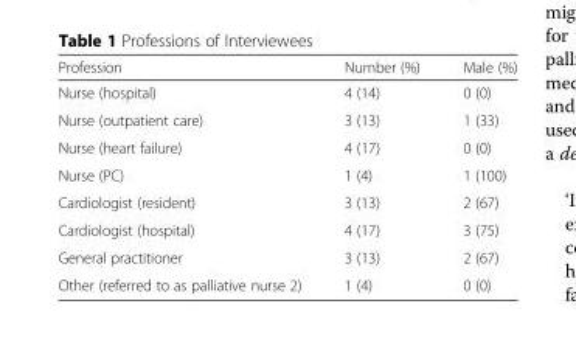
<table><thead><tr><td>Profession</td><td>Number (%)</td><td>Male (%)</td></tr></thead><tbody><tr><td>Nurse (hospital)</td><td>4 (14)</td><td>0 (0)</td></tr><tr><td>Nurse (outpatient care)</td><td>3 (13)</td><td>1 (33)</td></tr><tr><td>Nurse (heart failure)</td><td>4 (17)</td><td>0 (0)</td></tr><tr><td>Nurse (PC)</td><td>1 (4)</td><td>1 (100)</td></tr><tr><td>Cardiologist (resident)</td><td>3 (13)</td><td>2 (67)</td></tr><tr><td>Cardiologist (hospital)</td><td>4 (17)</td><td>3 (75)</td></tr><tr><td>General practitioner</td><td>3 (13)</td><td>2 (67)</td></tr><tr><td>Other (referred to as palliative nurse 2)</td><td>1 (4)</td><td>0 (0)</td></tr></tbody></table>